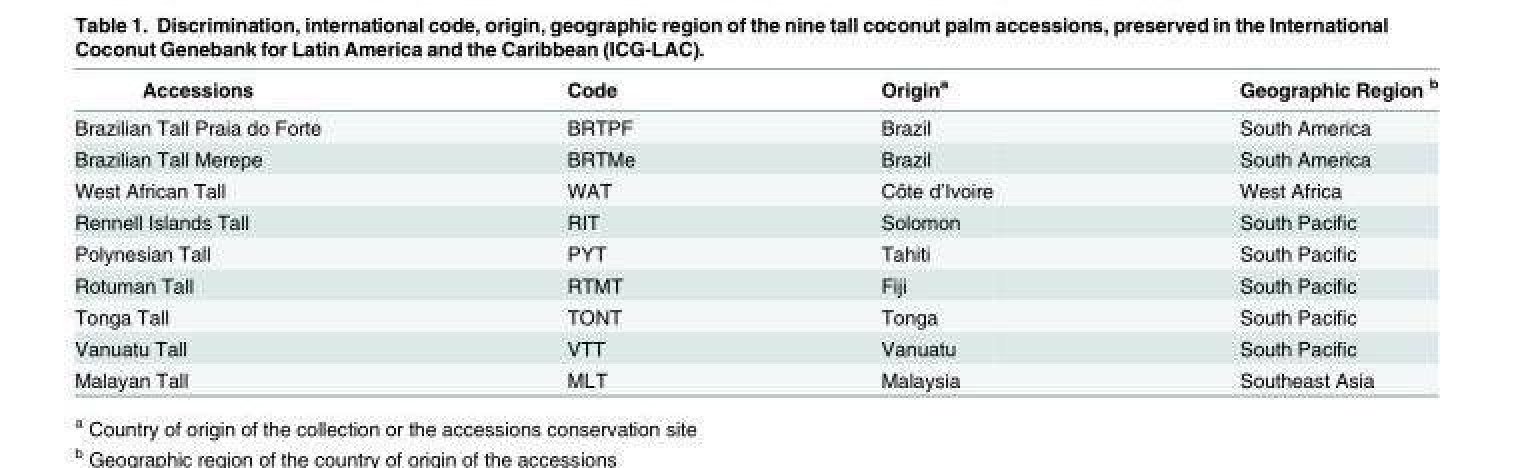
<table><thead><tr><td>Accessions</td><td>Code</td><td>Origin<sup>a</sup></td><td>Geographic Region <sup>b</sup></td></tr></thead><tbody><tr><td>Brazilian Tall Praia do Forte</td><td>BRTPF</td><td>Brazil</td><td>South America</td></tr><tr><td>Brazilian Tall Merepe</td><td>BRTMe</td><td>Brazil</td><td>South America</td></tr><tr><td>West African Tall</td><td>WAT</td><td>Côte d’Ivoire</td><td>West Africa</td></tr><tr><td>Rennell Islands Tall</td><td>RIT</td><td>Solomon</td><td>South Pacific</td></tr><tr><td>Polynesian Tall</td><td>PYT</td><td>Tahiti</td><td>South Pacific</td></tr><tr><td>Rotuman Tall</td><td>RTMT</td><td>Fiji</td><td>South Pacific</td></tr><tr><td>Tonga Tall</td><td>TONT</td><td>Tonga</td><td>South Pacific</td></tr><tr><td>Vanuatu Tall</td><td>VTT</td><td>Vanuatu</td><td>South Pacific</td></tr><tr><td>Malayan Tall</td><td>MLT</td><td>Malaysia</td><td>Southeast Asia</td></tr></tbody></table>